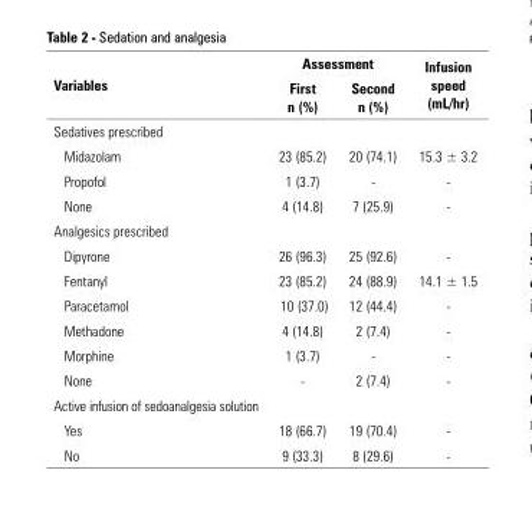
<table><thead><tr><td rowspan="2">Variables</td><td colspan="2">Assessment</td><td rowspan="2">Infusion speed (mL/hr)</td></tr><tr><td>First n (%)</td><td>Second n (%)</td></tr></thead><tbody><tr><td colspan="4">Sedatives prescribed</td></tr><tr><td>Midazolam</td><td>23 (85.2)</td><td>20 (74.1)</td><td>15.3 ± 3.2</td></tr><tr><td>Propofol</td><td>1 (3.7)</td><td>-</td><td>-</td></tr><tr><td>None</td><td>4 (14.8)</td><td>7 (25.9)</td><td>-</td></tr><tr><td colspan="4">Analgesics prescribed</td></tr><tr><td>Dipyrone</td><td>26 (96.3)</td><td>25 (92.6)</td><td>-</td></tr><tr><td>Fentanyl</td><td>23 (85.2)</td><td>24 (88.9)</td><td>14.1 ± 1.5</td></tr><tr><td>Paracetamol</td><td>10 (37.0)</td><td>12 (44.4)</td><td>-</td></tr><tr><td>Methadone</td><td>4 (14.8)</td><td>2 (7.4)</td><td>-</td></tr><tr><td>Morphine</td><td>1 (3.7)</td><td>-</td><td>-</td></tr><tr><td>None</td><td>-</td><td>2 (7.4)</td><td>-</td></tr><tr><td colspan="4">Active infusion of sedoanalgesia solution</td></tr><tr><td>Yes</td><td>18 (66.7)</td><td>19 (70.4)</td><td>-</td></tr><tr><td>No</td><td>9 (33.3)</td><td>8 (29.6)</td><td>-</td></tr></tbody></table>